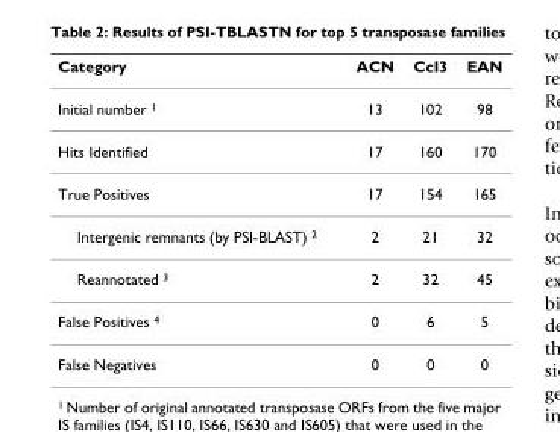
<table><thead><tr><td>Category</td><td>ACN</td><td>CcI3</td><td>EAN</td></tr></thead><tbody><tr><td>Initial number <sup>1</sup></td><td>13</td><td>102</td><td>98</td></tr><tr><td>Hits Identified</td><td>17</td><td>160</td><td>170</td></tr><tr><td>True Positives</td><td>17</td><td>154</td><td>165</td></tr><tr><td>Intergenic remnants (by PSI-BLAST) <sup>2</sup></td><td>2</td><td>21</td><td>32</td></tr><tr><td>Reannotated <sup>3</sup></td><td>2</td><td>32</td><td>45</td></tr><tr><td>False Positives <sup>4</sup></td><td>0</td><td>6</td><td>5</td></tr><tr><td>False Negatives</td><td>0</td><td>0</td><td>0</td></tr></tbody></table>